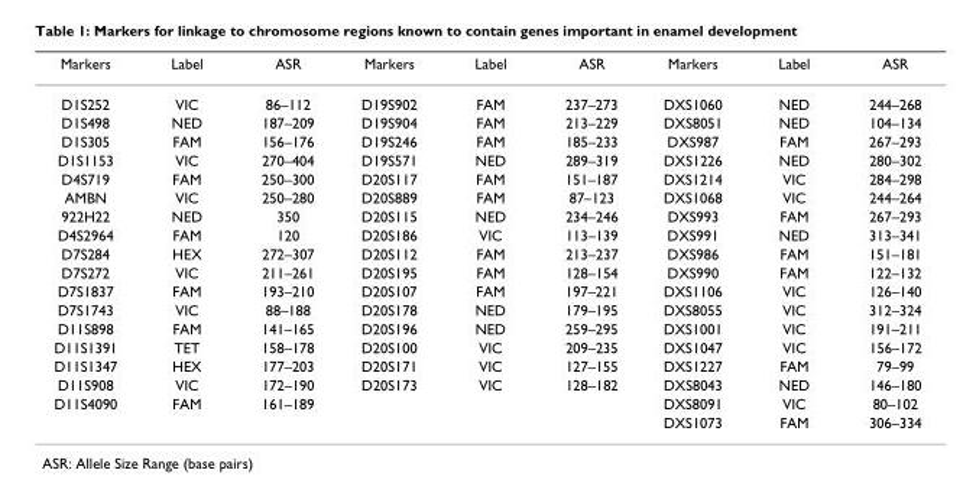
<table><thead><tr><td>Markers</td><td>Label</td><td>ASR</td><td>Markers</td><td>Label</td><td>ASR</td><td>Markers</td><td>Label</td><td>ASR</td></tr></thead><tbody><tr><td>D1S252</td><td>VIC</td><td>86–112</td><td>D19S902</td><td>FAM</td><td>237–273</td><td>DXS1060</td><td>NED</td><td>244–268</td></tr><tr><td>D1S498</td><td>NED</td><td>187–209</td><td>D19S904</td><td>FAM</td><td>213–229</td><td>DXS8051</td><td>NED</td><td>104–134</td></tr><tr><td>D1S305</td><td>FAM</td><td>156–176</td><td>D19S246</td><td>FAM</td><td>185–233</td><td>DXS987</td><td>FAM</td><td>267–293</td></tr><tr><td>D1S1153</td><td>VIC</td><td>270–404</td><td>D19S571</td><td>NED</td><td>289–319</td><td>DXS1226</td><td>NED</td><td>280–302</td></tr><tr><td>D4S719</td><td>FAM</td><td>250–300</td><td>D20S117</td><td>FAM</td><td>151–187</td><td>DXS1214</td><td>VIC</td><td>284–298</td></tr><tr><td>AMBN</td><td>VIC</td><td>250–280</td><td>D20S889</td><td>FAM</td><td>87–123</td><td>DXS1068</td><td>VIC</td><td>244–264</td></tr><tr><td>922H22</td><td>NED</td><td>350</td><td>D20S115</td><td>NED</td><td>234–246</td><td>DXS993</td><td>FAM</td><td>267–293</td></tr><tr><td>D4S2964</td><td>FAM</td><td>120</td><td>D20S186</td><td>VIC</td><td>113–139</td><td>DXS991</td><td>NED</td><td>313–341</td></tr><tr><td>D7S284</td><td>HEX</td><td>272–307</td><td>D20S112</td><td>FAM</td><td>213–237</td><td>DXS986</td><td>FAM</td><td>151–181</td></tr><tr><td>D7S272</td><td>VIC</td><td>211–261</td><td>D20S195</td><td>FAM</td><td>128–154</td><td>DXS990</td><td>FAM</td><td>122–132</td></tr><tr><td>D7S1837</td><td>FAM</td><td>193–210</td><td>D20S107</td><td>FAM</td><td>197–221</td><td>DXS1106</td><td>VIC</td><td>126–140</td></tr><tr><td>D7S1743</td><td>VIC</td><td>88–188</td><td>D20S178</td><td>NED</td><td>179–195</td><td>DXS8055</td><td>VIC</td><td>312–324</td></tr><tr><td>D11S898</td><td>FAM</td><td>141–165</td><td>D20S196</td><td>NED</td><td>259–295</td><td>DXS1001</td><td>VIC</td><td>191–211</td></tr><tr><td>D11S1391</td><td>TET</td><td>158–178</td><td>D20S100</td><td>VIC</td><td>209–235</td><td>DXS1047</td><td>VIC</td><td>156–172</td></tr><tr><td>D11S1347</td><td>HEX</td><td>177–203</td><td>D20S171</td><td>VIC</td><td>127–155</td><td>DXS1227</td><td>FAM</td><td>79–99</td></tr><tr><td>D11S908</td><td>VIC</td><td>172–190</td><td>D20S173</td><td>VIC</td><td>128–182</td><td>DXS8043</td><td>NED</td><td>146–180</td></tr><tr><td rowspan="2">D11S4090</td><td>FAM</td><td>161–189</td><td></td><td></td><td></td><td>DXS8091</td><td>VIC</td><td>80–102</td></tr><tr><td></td><td></td><td></td><td></td><td></td><td>DXS1073</td><td>FAM</td><td>306–334</td></tr></tbody></table>